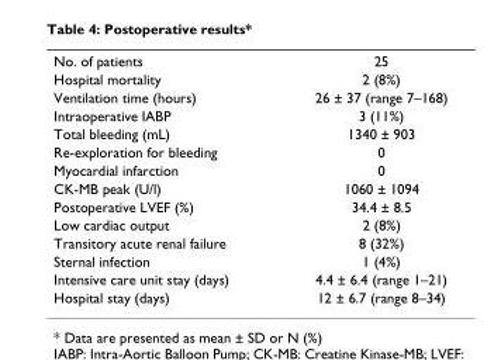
<table><tbody><tr><td>No. of patients</td><td>25</td></tr><tr><td>Hospital mortality</td><td>2 (8%)</td></tr><tr><td>Ventilation time (hours)</td><td>26 ± 37 (range 7–168)</td></tr><tr><td>Intraoperative IABP</td><td>3 (11%)</td></tr><tr><td>Total bleeding (mL)</td><td>1340 ± 903</td></tr><tr><td>Re-exploration for bleeding</td><td>0</td></tr><tr><td>Myocardial infarction</td><td>0</td></tr><tr><td>CK-MB peak (U/l)</td><td>1060 ± 1094</td></tr><tr><td>Postoperative LVEF (%)</td><td>34.4 ± 8.5</td></tr><tr><td>Low cardiac output</td><td>2 (8%)</td></tr><tr><td>Transitory acute renal failure</td><td>8 (32%)</td></tr><tr><td>Sternal infection</td><td>1 (4%)</td></tr><tr><td>Intensive care unit stay (days)</td><td>4.4 ± 6.4 (range 1–21)</td></tr><tr><td>Hospital stay (days)</td><td>12 ± 6.7 (range 8–34)</td></tr></tbody></table>